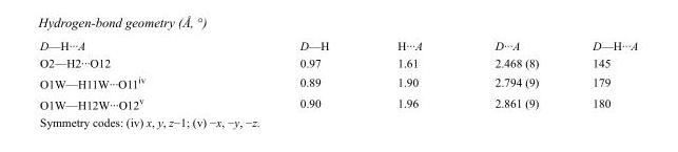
<table><tbody><tr><td>D—H···A</td><td>D—H</td><td>H···A</td><td>D···A</td><td>D—H···A</td></tr><tr><td>O2—H2···O12</td><td>0.97</td><td>1.61</td><td>2.468 (8)</td><td>145</td></tr><tr><td>O1W—H11W···O11<sup>iv</sup></td><td>0.89</td><td>1.90</td><td>2.794 (9)</td><td>179</td></tr><tr><td>O1W—H12W···O12<sup>v</sup></td><td>0.90</td><td>1.96</td><td>2.861 (9)</td><td>180</td></tr></tbody></table>